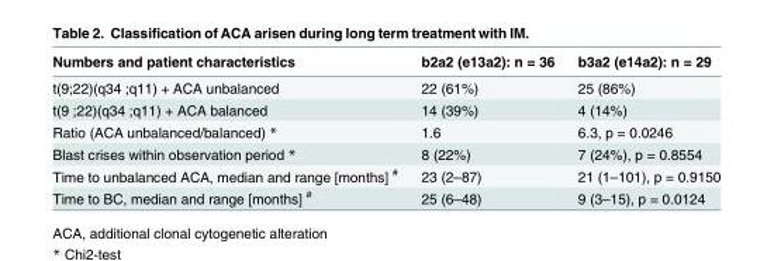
<table><thead><tr><td>Numbers and patient characteristics</td><td>b2a2 (e13a2): n = 36</td><td>b3a2 (e14a2): n = 29</td></tr></thead><tbody><tr><td>t(9;22)(q34 ;q11) + ACA unbalanced</td><td>22 (61%)</td><td>25 (86%)</td></tr><tr><td>t(9 ;22)(q34 ;q11) + ACA balanced</td><td>14 (39%)</td><td>4 (14%)</td></tr><tr><td>Ratio (ACA unbalanced/balanced) *</td><td>1.6</td><td>6.3, p = 0.0246</td></tr><tr><td>Blast crises within observation period *</td><td>8 (22%)</td><td>7 (24%), p = 0.8554</td></tr><tr><td>Time to unbalanced ACA, median and range [months] <sup>#</sup></td><td>23 (2–87)</td><td>21 (1–101), p = 0.9150</td></tr><tr><td>Time to BC, median and range [months] <sup>#</sup></td><td>25 (6–48)</td><td>9 (3–15), p = 0.0124</td></tr></tbody></table>